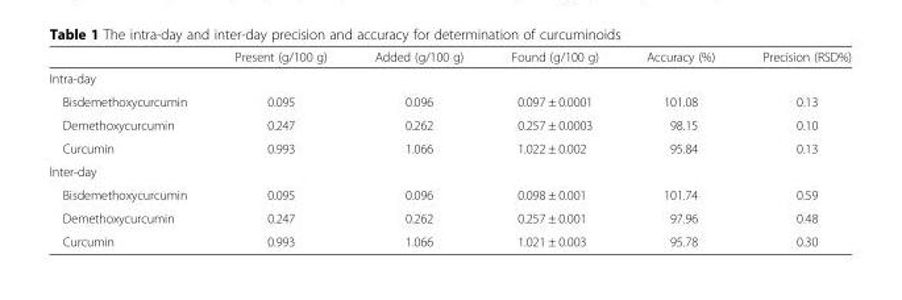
<table><thead><tr><td></td><td>Present (g/100 g)</td><td>Added (g/100 g)</td><td>Found (g/100 g)</td><td>Accuracy (%)</td><td>Precision (RSD%)</td></tr></thead><tbody><tr><td colspan="6">Intra-day</td></tr><tr><td>Bisdemethoxycurcumin</td><td>0.095</td><td>0.096</td><td>0.097 ± 0.0001</td><td>101.08</td><td>0.13</td></tr><tr><td>Demethoxycurcumin</td><td>0.247</td><td>0.262</td><td>0.257 ± 0.0003</td><td>98.15</td><td>0.10</td></tr><tr><td>Curcumin</td><td>0.993</td><td>1.066</td><td>1.022 ± 0.002</td><td>95.84</td><td>0.13</td></tr><tr><td colspan="6">Inter-day</td></tr><tr><td>Bisdemethoxycurcumin</td><td>0.095</td><td>0.096</td><td>0.098 ± 0.001</td><td>101.74</td><td>0.59</td></tr><tr><td>Demethoxycurcumin</td><td>0.247</td><td>0.262</td><td>0.257 ± 0.001</td><td>97.96</td><td>0.48</td></tr><tr><td>Curcumin</td><td>0.993</td><td>1.066</td><td>1.021 ± 0.003</td><td>95.78</td><td>0.30</td></tr></tbody></table>